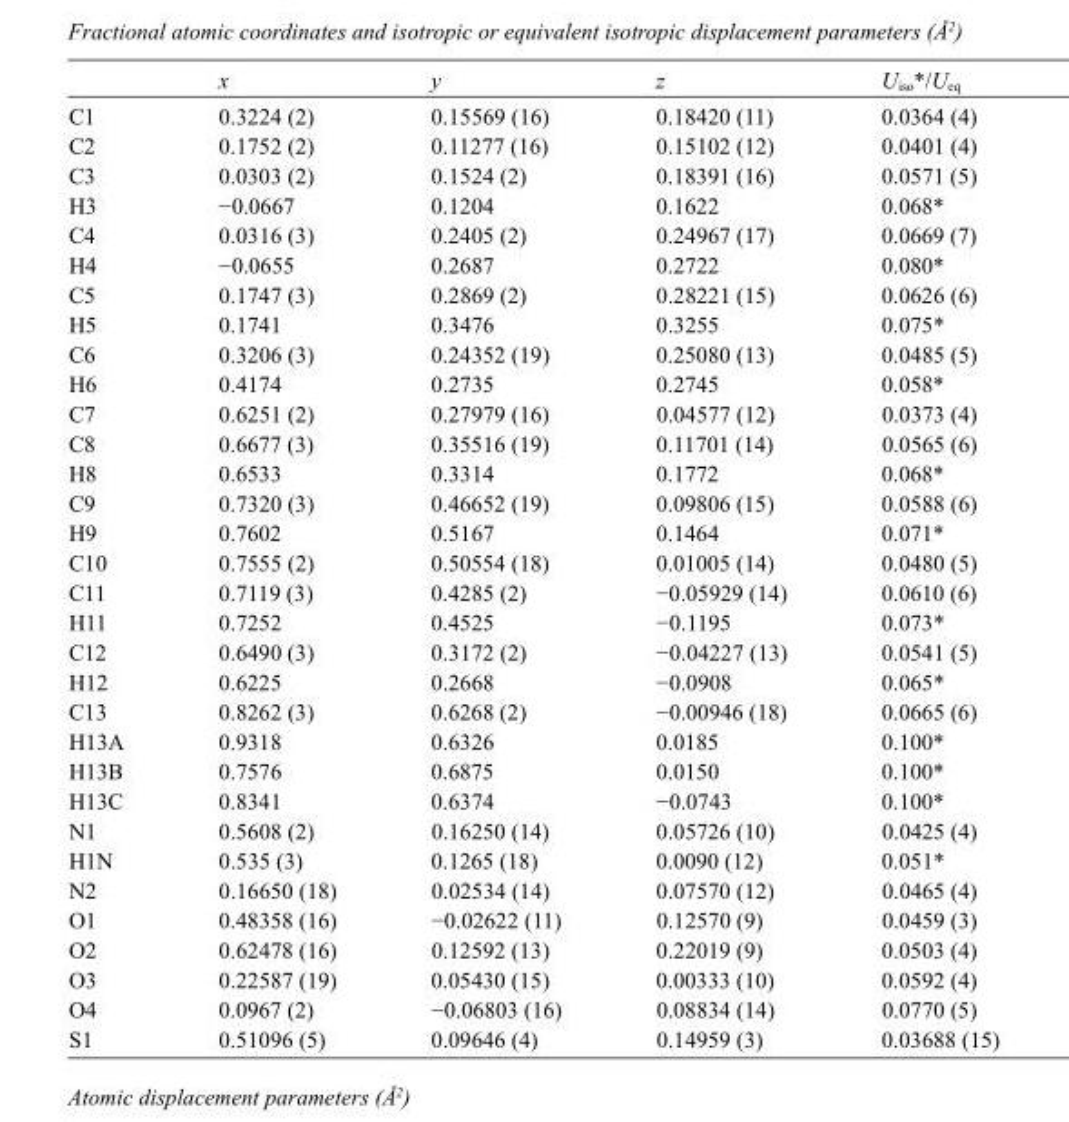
<table><thead><tr><td></td><td>x</td><td>y</td><td>z</td><td>U<sub>iso</sub>*/U<sub>eq</sub></td></tr></thead><tbody><tr><td>C1</td><td>0.3224 (2)</td><td>0.15569 (16)</td><td>0.18420 (11)</td><td>0.0364 (4)</td></tr><tr><td>C2</td><td>0.1752 (2)</td><td>0.11277 (16)</td><td>0.15102 (12)</td><td>0.0401 (4)</td></tr><tr><td>C3</td><td>0.0303 (2)</td><td>0.1524 (2)</td><td>0.18391 (16)</td><td>0.0571 (5)</td></tr><tr><td>H3</td><td>−0.0667</td><td>0.1204</td><td>0.1622</td><td>0.068*</td></tr><tr><td>C4</td><td>0.0316 (3)</td><td>0.2405 (2)</td><td>0.24967 (17)</td><td>0.0669 (7)</td></tr><tr><td>H4</td><td>−0.0655</td><td>0.2687</td><td>0.2722</td><td>0.080*</td></tr><tr><td>C5</td><td>0.1747 (3)</td><td>0.2869 (2)</td><td>0.28221 (15)</td><td>0.0626 (6)</td></tr><tr><td>H5</td><td>0.1741</td><td>0.3476</td><td>0.3255</td><td>0.075*</td></tr><tr><td>C6</td><td>0.3206 (3)</td><td>0.24352 (19)</td><td>0.25080 (13)</td><td>0.0485 (5)</td></tr><tr><td>H6</td><td>0.4174</td><td>0.2735</td><td>0.2745</td><td>0.058*</td></tr><tr><td>C7</td><td>0.6251 (2)</td><td>0.27979 (16)</td><td>0.04577 (12)</td><td>0.0373 (4)</td></tr><tr><td>C8</td><td>0.6677 (3)</td><td>0.35516 (19)</td><td>0.11701 (14)</td><td>0.0565 (6)</td></tr><tr><td>H8</td><td>0.6533</td><td>0.3314</td><td>0.1772</td><td>0.068*</td></tr><tr><td>C9</td><td>0.7320 (3)</td><td>0.46652 (19)</td><td>0.09806 (15)</td><td>0.0588 (6)</td></tr><tr><td>H9</td><td>0.7602</td><td>0.5167</td><td>0.1464</td><td>0.071*</td></tr><tr><td>C10</td><td>0.7555 (2)</td><td>0.50554 (18)</td><td>0.01005 (14)</td><td>0.0480 (5)</td></tr><tr><td>C11</td><td>0.7119 (3)</td><td>0.4285 (2)</td><td>−0.05929 (14)</td><td>0.0610 (6)</td></tr><tr><td>H11</td><td>0.7252</td><td>0.4525</td><td>−0.1195</td><td>0.073*</td></tr><tr><td>C12</td><td>0.6490 (3)</td><td>0.3172 (2)</td><td>−0.04227 (13)</td><td>0.0541 (5)</td></tr><tr><td>H12</td><td>0.6225</td><td>0.2668</td><td>−0.0908</td><td>0.065*</td></tr><tr><td>C13</td><td>0.8262 (3)</td><td>0.6268 (2)</td><td>−0.00946 (18)</td><td>0.0665 (6)</td></tr><tr><td>H13A</td><td>0.9318</td><td>0.6326</td><td>0.0185</td><td>0.100*</td></tr><tr><td>H13B</td><td>0.7576</td><td>0.6875</td><td>0.0150</td><td>0.100*</td></tr><tr><td>H13C</td><td>0.8341</td><td>0.6374</td><td>−0.0743</td><td>0.100*</td></tr><tr><td>N1</td><td>0.5608 (2)</td><td>0.16250 (14)</td><td>0.05726 (10)</td><td>0.0425 (4)</td></tr><tr><td>H1N</td><td>0.535 (3)</td><td>0.1265 (18)</td><td>0.0090 (12)</td><td>0.051*</td></tr><tr><td>N2</td><td>0.16650 (18)</td><td>0.02534 (14)</td><td>0.07570 (12)</td><td>0.0465 (4)</td></tr><tr><td>O1</td><td>0.48358 (16)</td><td>−0.02622 (11)</td><td>0.12570 (9)</td><td>0.0459 (3)</td></tr><tr><td>O2</td><td>0.62478 (16)</td><td>0.12592 (13)</td><td>0.22019 (9)</td><td>0.0503 (4)</td></tr><tr><td>O3</td><td>0.22587 (19)</td><td>0.05430 (15)</td><td>0.00333 (10)</td><td>0.0592 (4)</td></tr><tr><td>O4</td><td>0.0967 (2)</td><td>−0.06803 (16)</td><td>0.08834 (14)</td><td>0.0770 (5)</td></tr><tr><td>S1</td><td>0.51096 (5)</td><td>0.09646 (4)</td><td>0.14959 (3)</td><td>0.03688 (15)</td></tr></tbody></table>